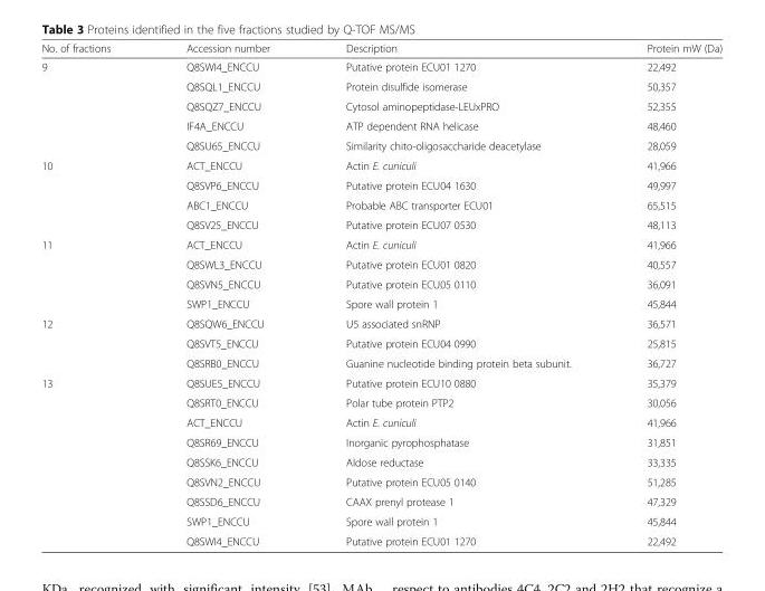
<table><thead><tr><td>No. of fractions</td><td>Accession number</td><td>Description</td><td>Protein mW (Da)</td></tr></thead><tbody><tr><td rowspan="5">9</td><td>Q8SWI4_ENCCU</td><td>Putative protein ECU01 1270</td><td>22,492</td></tr><tr><td>Q8SQL1_ENCCU</td><td>Protein disulfide isomerase</td><td>50,357</td></tr><tr><td>Q8SQZ7_ENCCU</td><td>Cytosol aminopeptidase-LEUxPRO</td><td>52,355</td></tr><tr><td>IF4A_ENCCU</td><td>ATP dependent RNA helicase</td><td>48,460</td></tr><tr><td>Q8SU65_ENCCU</td><td>Similarity chito-oligosaccharide deacetylase</td><td>28,059</td></tr><tr><td rowspan="4">10</td><td>ACT_ENCCU</td><td>Actin E. cuniculi</td><td>41,966</td></tr><tr><td>Q8SVP6_ENCCU</td><td>Putative protein ECU04 1630</td><td>49,997</td></tr><tr><td>ABC1_ENCCU</td><td>Probable ABC transporter ECU01</td><td>65,515</td></tr><tr><td>Q8SV25_ENCCU</td><td>Putative protein ECU07 0530</td><td>48,113</td></tr><tr><td rowspan="4">11</td><td>ACT_ENCCU</td><td>Actin E. cuniculi</td><td>41,966</td></tr><tr><td>Q8SWL3_ENCCU</td><td>Putative protein ECU01 0820</td><td>40,557</td></tr><tr><td>Q8SVN5_ENCCU</td><td>Putative protein ECU05 0110</td><td>36,091</td></tr><tr><td>SWP1_ENCCU</td><td>Spore wall protein 1</td><td>45,844</td></tr><tr><td rowspan="3">12</td><td>Q8SQW6_ENCCU</td><td>U5 associated snRNP</td><td>36,571</td></tr><tr><td>Q8SVT5_ENCCU</td><td>Putative protein ECU04 0990</td><td>25,815</td></tr><tr><td>Q8SRB0_ENCCU</td><td>Guanine nucleotide binding protein beta subunit.</td><td>36,727</td></tr><tr><td rowspan="9">13</td><td>Q8SUE5_ENCCU</td><td>Putative protein ECU10 0880</td><td>35,379</td></tr><tr><td>Q8SRT0_ENCCU</td><td>Polar tube protein PTP2</td><td>30,056</td></tr><tr><td>ACT_ENCCU</td><td>Actin E. cuniculi</td><td>41,966</td></tr><tr><td>Q8SR69_ENCCU</td><td>Inorganic pyrophosphatase</td><td>31,851</td></tr><tr><td>Q8SSK6_ENCCU</td><td>Aldose reductase</td><td>33,335</td></tr><tr><td>Q8SVN2_ENCCU</td><td>Putative protein ECU05 0140</td><td>51,285</td></tr><tr><td>Q8SSD6_ENCCU</td><td>CAAX prenyl protease 1</td><td>47,329</td></tr><tr><td>SWP1_ENCCU</td><td>Spore wall protein 1</td><td>45,844</td></tr><tr><td>Q8SWI4_ENCCU</td><td>Putative protein ECU01 1270</td><td>22,492</td></tr></tbody></table>